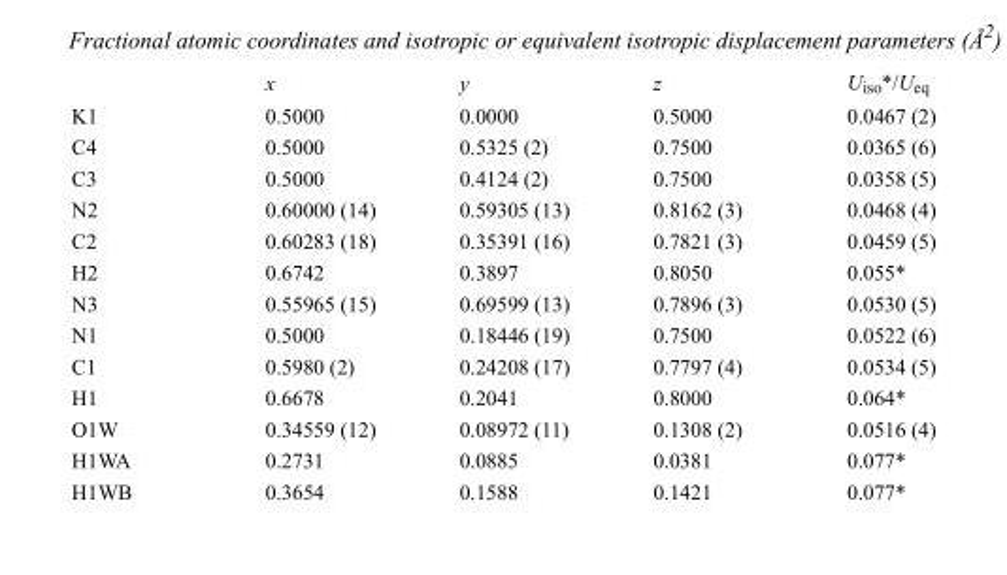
<table><thead><tr><td></td><td>x</td><td>y</td><td>z</td><td>U<sub>iso</sub>*/U<sub>eq</sub></td></tr></thead><tbody><tr><td>K1</td><td>0.5000</td><td>0.0000</td><td>0.5000</td><td>0.0467 (2)</td></tr><tr><td>C4</td><td>0.5000</td><td>0.5325 (2)</td><td>0.7500</td><td>0.0365 (6)</td></tr><tr><td>C3</td><td>0.5000</td><td>0.4124 (2)</td><td>0.7500</td><td>0.0358 (5)</td></tr><tr><td>N2</td><td>0.60000 (14)</td><td>0.59305 (13)</td><td>0.8162 (3)</td><td>0.0468 (4)</td></tr><tr><td>C2</td><td>0.60283 (18)</td><td>0.35391 (16)</td><td>0.7821 (3)</td><td>0.0459 (5)</td></tr><tr><td>H2</td><td>0.6742</td><td>0.3897</td><td>0.8050</td><td>0.055*</td></tr><tr><td>N3</td><td>0.55965 (15)</td><td>0.69599 (13)</td><td>0.7896 (3)</td><td>0.0530 (5)</td></tr><tr><td>N1</td><td>0.5000</td><td>0.18446 (19)</td><td>0.7500</td><td>0.0522 (6)</td></tr><tr><td>C1</td><td>0.5980 (2)</td><td>0.24208 (17)</td><td>0.7797 (4)</td><td>0.0534 (5)</td></tr><tr><td>H1</td><td>0.6678</td><td>0.2041</td><td>0.8000</td><td>0.064*</td></tr><tr><td>O1W</td><td>0.34559 (12)</td><td>0.08972 (11)</td><td>0.1308 (2)</td><td>0.0516 (4)</td></tr><tr><td>H1WA</td><td>0.2731</td><td>0.0885</td><td>0.0381</td><td>0.077*</td></tr><tr><td>H1WB</td><td>0.3654</td><td>0.1588</td><td>0.1421</td><td>0.077*</td></tr></tbody></table>